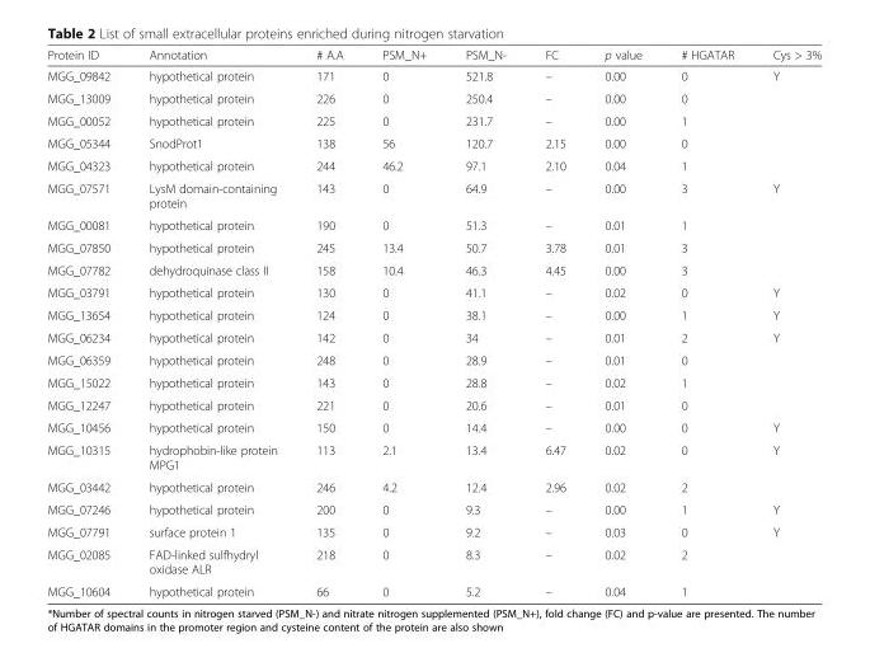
<table><thead><tr><td>Protein ID</td><td>Annotation</td><td># A.A</td><td>PSM_N+</td><td>PSM_N-</td><td>FC</td><td>p value</td><td># HGATAR</td><td>Cys &gt; 3%</td></tr></thead><tbody><tr><td>MGG_09842</td><td>hypothetical protein</td><td>171</td><td>0</td><td>521.8</td><td>–</td><td>0.00</td><td>0</td><td>Y</td></tr><tr><td>MGG_13009</td><td>hypothetical protein</td><td>226</td><td>0</td><td>250.4</td><td>–</td><td>0.00</td><td>0</td><td></td></tr><tr><td>MGG_00052</td><td>hypothetical protein</td><td>225</td><td>0</td><td>231.7</td><td>–</td><td>0.00</td><td>1</td><td></td></tr><tr><td>MGG_05344</td><td>SnodProt1</td><td>138</td><td>56</td><td>120.7</td><td>2.15</td><td>0.00</td><td>0</td><td></td></tr><tr><td>MGG_04323</td><td>hypothetical protein</td><td>244</td><td>46.2</td><td>97.1</td><td>2.10</td><td>0.04</td><td>1</td><td></td></tr><tr><td>MGG_07571</td><td>LysM domain-containing protein</td><td>143</td><td>0</td><td>64.9</td><td>–</td><td>0.00</td><td>3</td><td>Y</td></tr><tr><td>MGG_00081</td><td>hypothetical protein</td><td>190</td><td>0</td><td>51.3</td><td>–</td><td>0.01</td><td>1</td><td></td></tr><tr><td>MGG_07850</td><td>hypothetical protein</td><td>245</td><td>13.4</td><td>50.7</td><td>3.78</td><td>0.01</td><td>3</td><td></td></tr><tr><td>MGG_07782</td><td>dehydroquinase class II</td><td>158</td><td>10.4</td><td>46.3</td><td>4.45</td><td>0.00</td><td>3</td><td></td></tr><tr><td>MGG_03791</td><td>hypothetical protein</td><td>130</td><td>0</td><td>41.1</td><td>–</td><td>0.02</td><td>0</td><td>Y</td></tr><tr><td>MGG_13654</td><td>hypothetical protein</td><td>124</td><td>0</td><td>38.1</td><td>–</td><td>0.00</td><td>1</td><td>Y</td></tr><tr><td>MGG_06234</td><td>hypothetical protein</td><td>142</td><td>0</td><td>34</td><td>–</td><td>0.01</td><td>2</td><td>Y</td></tr><tr><td>MGG_06359</td><td>hypothetical protein</td><td>248</td><td>0</td><td>28.9</td><td>–</td><td>0.01</td><td>0</td><td></td></tr><tr><td>MGG_15022</td><td>hypothetical protein</td><td>143</td><td>0</td><td>28.8</td><td>–</td><td>0.02</td><td>1</td><td></td></tr><tr><td>MGG_12247</td><td>hypothetical protein</td><td>221</td><td>0</td><td>20.6</td><td>–</td><td>0.01</td><td>0</td><td></td></tr><tr><td>MGG_10456</td><td>hypothetical protein</td><td>150</td><td>0</td><td>14.4</td><td>–</td><td>0.00</td><td>0</td><td>Y</td></tr><tr><td>MGG_10315</td><td>hydrophobin-like protein MPG1</td><td>113</td><td>2.1</td><td>13.4</td><td>6.47</td><td>0.02</td><td>0</td><td>Y</td></tr><tr><td>MGG_03442</td><td>hypothetical protein</td><td>246</td><td>4.2</td><td>12.4</td><td>2.96</td><td>0.02</td><td>2</td><td></td></tr><tr><td>MGG_07246</td><td>hypothetical protein</td><td>200</td><td>0</td><td>9.3</td><td>–</td><td>0.00</td><td>1</td><td>Y</td></tr><tr><td>MGG_07791</td><td>surface protein 1</td><td>135</td><td>0</td><td>9.2</td><td>–</td><td>0.03</td><td>0</td><td>Y</td></tr><tr><td>MGG_02085</td><td>FAD-linked sulfhydryl oxidase ALR</td><td>218</td><td>0</td><td>8.3</td><td>–</td><td>0.02</td><td>2</td><td></td></tr><tr><td>MGG_10604</td><td>hypothetical protein</td><td>66</td><td>0</td><td>5.2</td><td>–</td><td>0.04</td><td>1</td><td></td></tr></tbody></table>